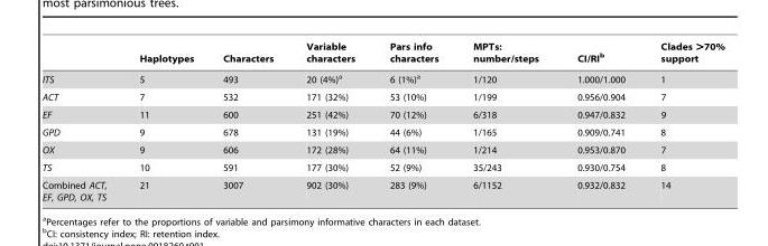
<table><thead><tr><td></td><td>Haplotypes</td><td>Characters</td><td>Variable characters</td><td>Pars info characters</td><td>MPTs: number/steps</td><td>CI/RI<sup>b</sup></td><td>Clades &gt;70% support</td></tr></thead><tbody><tr><td>ITS</td><td>5</td><td>493</td><td>20 (4%)<sup>a</sup></td><td>6 (1%)<sup>a</sup></td><td>1/120</td><td>1.000/1.000</td><td>1</td></tr><tr><td>ACT</td><td>7</td><td>532</td><td>171 (32%)</td><td>53 (10%)</td><td>1/199</td><td>0.956/0.904</td><td>7</td></tr><tr><td>EF</td><td>11</td><td>600</td><td>251 (42%)</td><td>70 (12%)</td><td>6/318</td><td>0.947/0.832</td><td>9</td></tr><tr><td>GPD</td><td>9</td><td>678</td><td>131 (19%)</td><td>44 (6%)</td><td>1/165</td><td>0.909/0.741</td><td>8</td></tr><tr><td>OX</td><td>9</td><td>606</td><td>172 (28%)</td><td>64 (11%)</td><td>1/214</td><td>0.953/0.870</td><td>7</td></tr><tr><td>TS</td><td>10</td><td>591</td><td>177 (30%)</td><td>52 (9%)</td><td>35/243</td><td>0.930/0.754</td><td>8</td></tr><tr><td>Combined ACT, EF, GPD, OX, TS</td><td>21</td><td>3007</td><td>902 (30%)</td><td>283 (9%)</td><td>6/1152</td><td>0.932/0.832</td><td>14</td></tr></tbody></table>